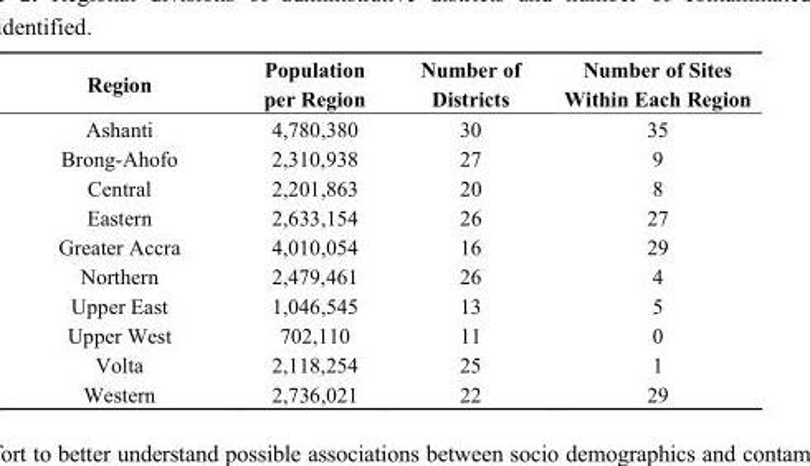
<table><thead><tr><td>Region</td><td>Population per Region</td><td>Number of Districts</td><td>Number of Sites Within Each Region</td></tr></thead><tbody><tr><td>Ashanti</td><td>4,780,380</td><td>30</td><td>35</td></tr><tr><td>Brong-Ahofo</td><td>2,310,938</td><td>27</td><td>9</td></tr><tr><td>Central</td><td>2,201,863</td><td>20</td><td>8</td></tr><tr><td>Eastern</td><td>2,633,154</td><td>26</td><td>27</td></tr><tr><td>Greater Accra</td><td>4,010,054</td><td>16</td><td>29</td></tr><tr><td>Northern</td><td>2,479,461</td><td>26</td><td>4</td></tr><tr><td>Upper East</td><td>1,046,545</td><td>13</td><td>5</td></tr><tr><td>Upper West</td><td>702,110</td><td>11</td><td>0</td></tr><tr><td>Volta</td><td>2,118,254</td><td>25</td><td>1</td></tr><tr><td>Western</td><td>2,736,021</td><td>22</td><td>29</td></tr></tbody></table>